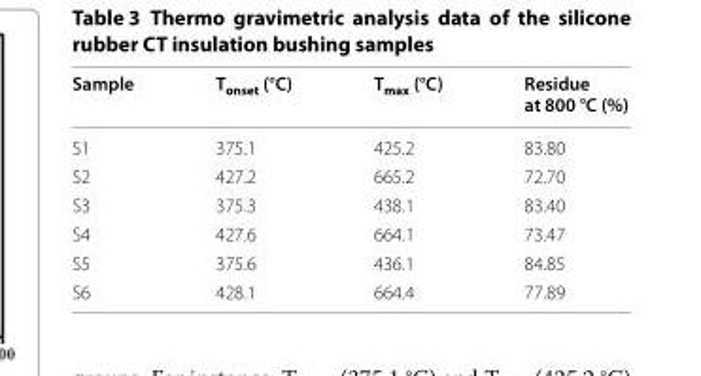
<table><thead><tr><td>Sample</td><td>T<sub>onset</sub> (°C)</td><td>T<sub>max</sub> (°C)</td><td>Residue at 800 °C (%)</td></tr></thead><tbody><tr><td>S1</td><td>375.1</td><td>425.2</td><td>83.80</td></tr><tr><td>S2</td><td>427.2</td><td>665.2</td><td>72.70</td></tr><tr><td>S3</td><td>375.3</td><td>438.1</td><td>83.40</td></tr><tr><td>S4</td><td>427.6</td><td>664.1</td><td>73.47</td></tr><tr><td>S5</td><td>375.6</td><td>436.1</td><td>84.85</td></tr><tr><td>S6</td><td>428.1</td><td>664.4</td><td>77.89</td></tr></tbody></table>